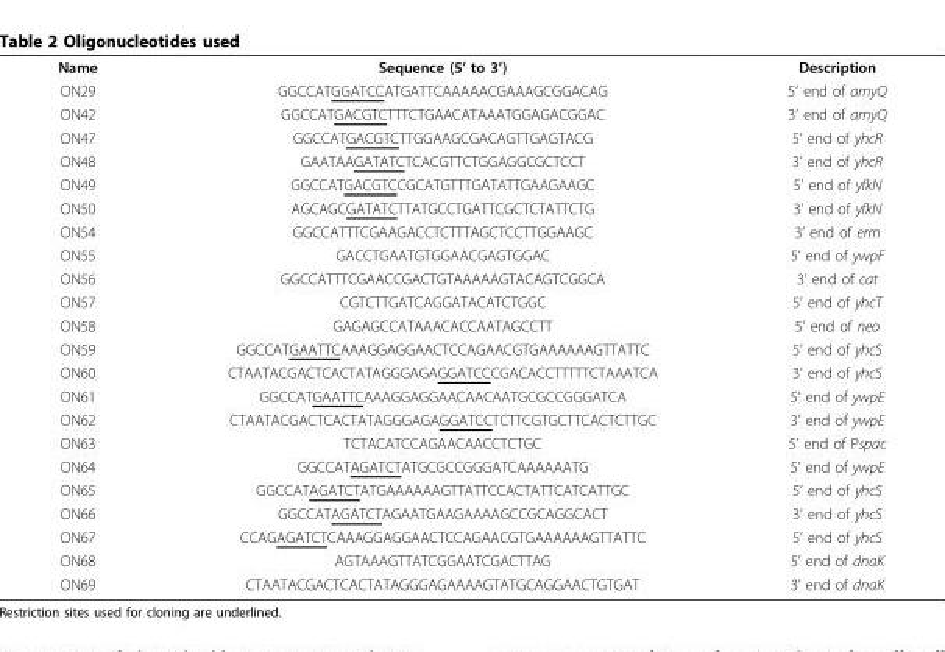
<table><tbody><tr><td>Name</td><td>Sequence (5’ to 3’)</td><td>Description</td></tr><tr><td>ON29</td><td>GGCCATGGATCCATGATTCAAAAACGAAAGCGGACAG</td><td>5’ end of amyQ</td></tr><tr><td>ON42</td><td>GGCCATGACGTCTTTCTGAACATAAATGGAGACGGAC</td><td>3’ end of amyQ</td></tr><tr><td>ON47</td><td>GGCCATGACGTCTTGGAAGCGACAGTTGAGTACG</td><td>5’ end of yhcR</td></tr><tr><td>ON48</td><td>GAATAAGATATCTCACGTTCTGGAGGCGCTCCT</td><td>3’ end of yhcR</td></tr><tr><td>ON49</td><td>GGCCATGACGTCCGCATGTTTGATATTGAAGAAGC</td><td>5’ end of yfkN</td></tr><tr><td>ON50</td><td>AGCAGCGATATCTTATGCCTGATTCGCTCTATTCTG</td><td>3’ end of yfkN</td></tr><tr><td>ON54</td><td>GGCCATTTCGAAGACCTCTTTAGCTCCTTGGAAGC</td><td>3’ end of erm</td></tr><tr><td>ON55</td><td>GACCTGAATGTGGAACGAGTGGAC</td><td>5’ end of ywpF</td></tr><tr><td>ON56</td><td>GGCCATTTCGAACCGACTGTAAAAAGTACAGTCGGCA</td><td>3’ end of cat</td></tr><tr><td>ON57</td><td>CGTCTTGATCAGGATACATCTGGC</td><td>5’ end of yhcT</td></tr><tr><td>ON58</td><td>GAGAGCCATAAACACCAATAGCCTT</td><td>5’ end of neo</td></tr><tr><td>ON59</td><td>GGCCATGAATTCAAAGGAGGAACTCCAGAACGTGAAAAAAGTTATTC</td><td>5’ end of yhcS</td></tr><tr><td>ON60</td><td>CTAATACGACTCACTATAGGGAGAGGATCCCGACACCTTTTTCTAAATCA</td><td>3’ end of yhcS</td></tr><tr><td>ON61</td><td>GGCCATGAATTCAAAGGAGGAACAACAATGCGCCGGGATCA</td><td>5’ end of ywpE</td></tr><tr><td>ON62</td><td>CTAATACGACTCACTATAGGGAGAGGATCCTCTTCGTGCTTCACTCTTGC</td><td>3’ end of ywpE</td></tr><tr><td>ON63</td><td>TCTACATCCAGAACAACCTCTGC</td><td>5’ end of Pspac</td></tr><tr><td>ON64</td><td>GGCCATAGATCTATGCGCCGGGATCAAAAAATG</td><td>5’ end of ywpE</td></tr><tr><td>ON65</td><td>GGCCATAGATCTATGAAAAAAGTTATTCCACTATTCATCATTGC</td><td>5’ end of yhcS</td></tr><tr><td>ON66</td><td>GGCCATAGATCTAGAATGAAGAAAAGCCGCAGGCACT</td><td>3’ end of yhcS</td></tr><tr><td>ON67</td><td>CCAGAGATCTCAAAGGAGGAACTCCAGAACGTGAAAAAAGTTATTC</td><td>5’ end of yhcS</td></tr><tr><td>ON68</td><td>AGTAAAGTTATCGGAATCGACTTAG</td><td>5’ end of dnaK</td></tr><tr><td>ON69</td><td>CTAATACGACTCACTATAGGGAGAAAAGTATGCAGGAACTGTGAT</td><td>3’ end of dnaK</td></tr></tbody></table>